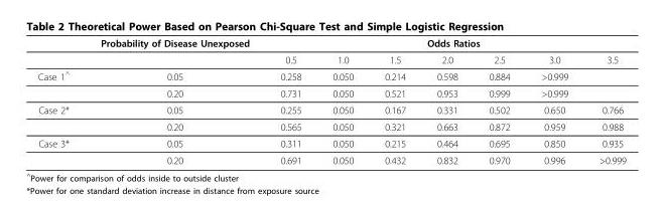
<table><thead><tr><td rowspan="2"></td><td rowspan="2">Probability of Disease Unexposed</td><td colspan="7">Odds Ratios</td></tr><tr><td>0.5</td><td>1.0</td><td>1.5</td><td>2.0</td><td>2.5</td><td>3.0</td><td>3.5</td></tr></thead><tbody><tr><td rowspan="2">Case 1<sup>^</sup></td><td>0.05</td><td>0.258</td><td>0.050</td><td>0.214</td><td>0.598</td><td>0.884</td><td>&gt;0.999</td><td></td></tr><tr><td>0.20</td><td>0.731</td><td>0.050</td><td>0.521</td><td>0.953</td><td>0.999</td><td>&gt;0.999</td><td></td></tr><tr><td rowspan="2">Case 2*</td><td>0.05</td><td>0.255</td><td>0.050</td><td>0.167</td><td>0.331</td><td>0.502</td><td>0.650</td><td>0.766</td></tr><tr><td>0.20</td><td>0.565</td><td>0.050</td><td>0.321</td><td>0.663</td><td>0.872</td><td>0.959</td><td>0.988</td></tr><tr><td rowspan="2">Case 3*</td><td>0.05</td><td>0.311</td><td>0.050</td><td>0.215</td><td>0.464</td><td>0.695</td><td>0.850</td><td>0.935</td></tr><tr><td>0.20</td><td>0.691</td><td>0.050</td><td>0.432</td><td>0.832</td><td>0.970</td><td>0.996</td><td>&gt;0.999</td></tr></tbody></table>